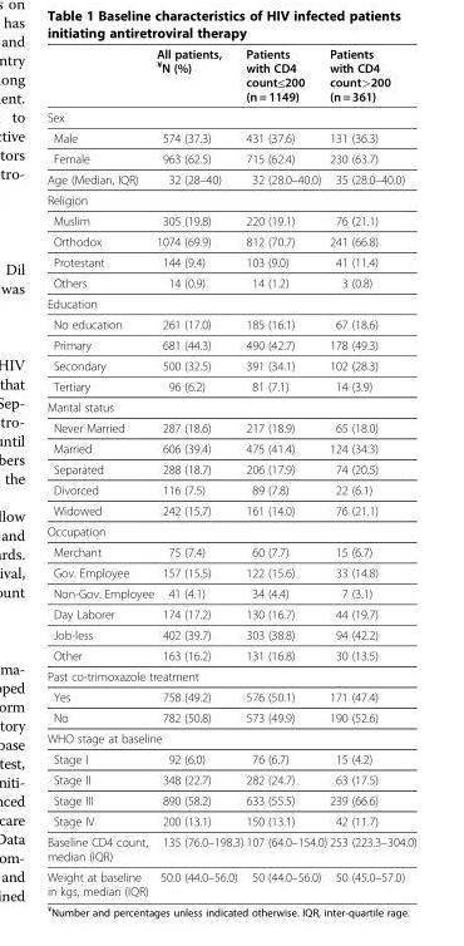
<table><thead><tr><td></td><td>All patients, <sup>¥</sup>N (%)</td><td>Patients with CD4 count≤200 (n = 1149)</td><td>Patients with CD4 count&gt;200 (n = 361)</td></tr></thead><tbody><tr><td colspan="4">Sex</td></tr><tr><td>Male</td><td>574 (37.3)</td><td>431 (37.6)</td><td>131 (36.3)</td></tr><tr><td>Female</td><td>963 (62.5)</td><td>715 (62.4)</td><td>230 (63.7)</td></tr><tr><td>Age (Median, IQR)</td><td>32 (28–40)</td><td>32 (28.0–40.0)</td><td>35 (28.0–40.0)</td></tr><tr><td colspan="4">Religion</td></tr><tr><td>Muslim</td><td>305 (19.8)</td><td>220 (19.1)</td><td>76 (21.1)</td></tr><tr><td>Orthodox</td><td>1074 (69.9)</td><td>812 (70.7)</td><td>241 (66.8)</td></tr><tr><td>Protestant</td><td>144 (9.4)</td><td>103 (9.0)</td><td>41 (11.4)</td></tr><tr><td>Others</td><td>14 (0.9)</td><td>14 (1.2)</td><td>3 (0.8)</td></tr><tr><td colspan="4">Education</td></tr><tr><td>No education</td><td>261 (17.0)</td><td>185 (16.1)</td><td>67 (18.6)</td></tr><tr><td>Primary</td><td>681 (44.3)</td><td>490 (42.7)</td><td>178 (49.3)</td></tr><tr><td>Secondary</td><td>500 (32.5)</td><td>391 (34.1)</td><td>102 (28.3)</td></tr><tr><td>Tertiary</td><td>96 (6.2)</td><td>81 (7.1)</td><td>14 (3.9)</td></tr><tr><td colspan="4">Marital status</td></tr><tr><td>Never Married</td><td>287 (18.6)</td><td>217 (18.9)</td><td>65 (18.0)</td></tr><tr><td>Married</td><td>606 (39.4)</td><td>475 (41.4)</td><td>124 (34.3)</td></tr><tr><td>Separated</td><td>288 (18.7)</td><td>206 (17.9)</td><td>74 (20.5)</td></tr><tr><td>Divorced</td><td>116 (7.5)</td><td>89 (7.8)</td><td>22 (6.1)</td></tr><tr><td>Widowed</td><td>242 (15.7)</td><td>161 (14.0)</td><td>76 (21.1)</td></tr><tr><td colspan="4">Occupation</td></tr><tr><td>Merchant</td><td>75 (7.4)</td><td>60 (7.7)</td><td>15 (6.7)</td></tr><tr><td>Gov. Employee</td><td>157 (15.5)</td><td>122 (15.6)</td><td>33 (14.8)</td></tr><tr><td>Non-Gov. Employee</td><td>41 (4.1)</td><td>34 (4.4)</td><td>7 (3.1)</td></tr><tr><td>Day Laborer</td><td>174 (17.2)</td><td>130 (16.7)</td><td>44 (19.7)</td></tr><tr><td>Job-less</td><td>402 (39.7)</td><td>303 (38.8)</td><td>94 (42.2)</td></tr><tr><td>Other</td><td>163 (16.2)</td><td>131 (16.8)</td><td>30 (13.5)</td></tr><tr><td colspan="4">Past co-trimoxazole treatment</td></tr><tr><td>Yes</td><td>758 (49.2)</td><td>576 (50.1)</td><td>171 (47.4)</td></tr><tr><td>No</td><td>782 (50.8)</td><td>573 (49.9)</td><td>190 (52.6)</td></tr><tr><td colspan="4">WHO stage at baseline</td></tr><tr><td>Stage I</td><td>92 (6.0)</td><td>76 (6.7)</td><td>15 (4.2)</td></tr><tr><td>Stage II</td><td>348 (22.7)</td><td>282 (24.7)</td><td>63 (17.5)</td></tr><tr><td>Stage III</td><td>890 (58.2)</td><td>633 (55.5)</td><td>239 (66.6)</td></tr><tr><td>Stage IV</td><td>200 (13.1)</td><td>150 (13.1)</td><td>42 (11.7)</td></tr><tr><td>Baseline CD4 count, median (IQR)</td><td>135 (76.0–198.3)</td><td>107 (64.0–154.0)</td><td>253 (223.3–304.0)</td></tr><tr><td>Weight at baseline in kgs, median (IQR)</td><td>50.0 (44.0–56.0)</td><td>50 (44.0–56.0)</td><td>50 (45.0–57.0)</td></tr></tbody></table>